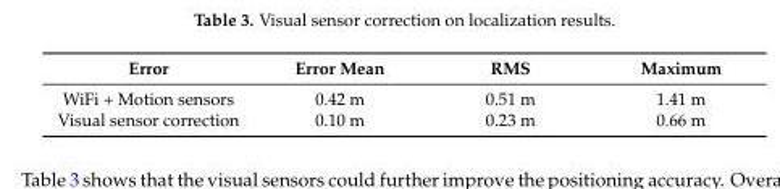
<table><thead><tr><td>Error</td><td>Error Mean</td><td>RMS</td><td>Maximum</td></tr></thead><tbody><tr><td>WiFi + Motion sensors</td><td>0.42 m</td><td>0.51 m</td><td>1.41 m</td></tr><tr><td>Visual sensor correction</td><td>0.10 m</td><td>0.23 m</td><td>0.66 m</td></tr></tbody></table>